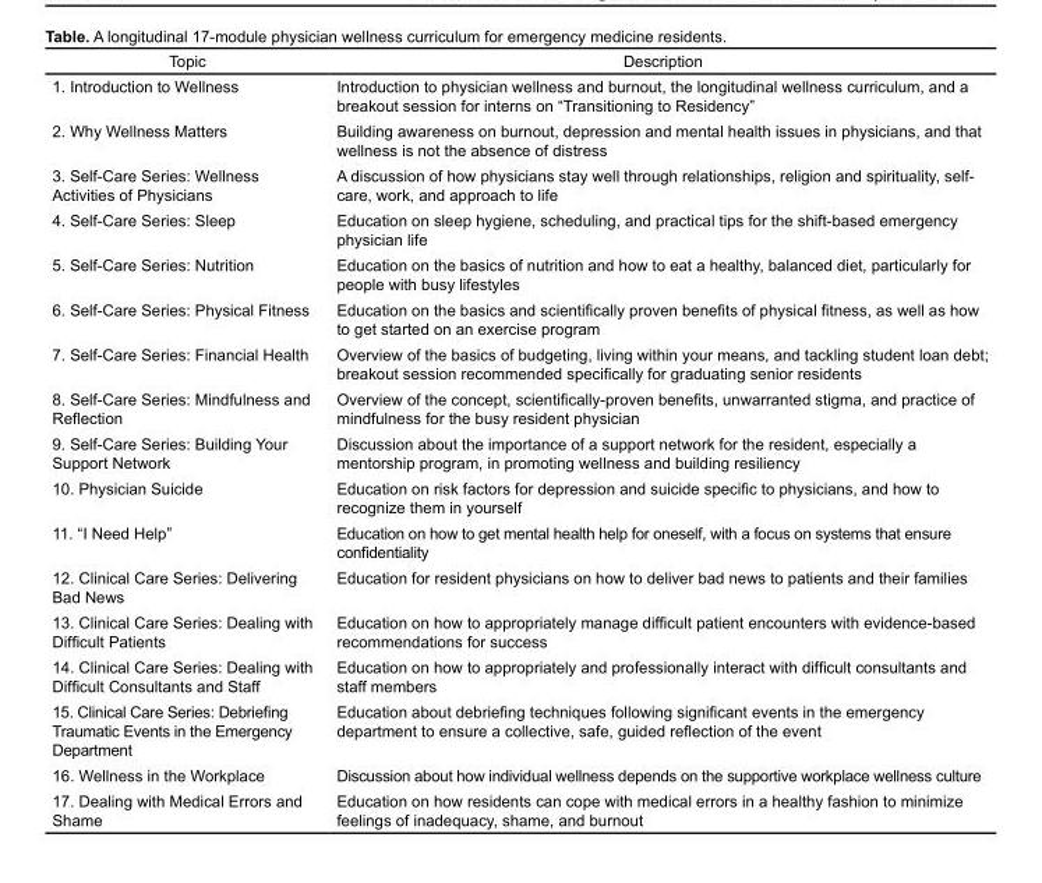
<table><thead><tr><td>Topic</td><td>Description</td></tr></thead><tbody><tr><td>1. Introduction to Wellness</td><td>Introduction to physician wellness and burnout, the longitudinal wellness curriculum, and a breakout session for interns on “Transitioning to Residency”</td></tr><tr><td>2. Why Wellness Matters</td><td>Building awareness on burnout, depression and mental health issues in physicians, and that wellness is not the absence of distress</td></tr><tr><td>3. Self-Care Series: Wellness Activities of Physicians</td><td>A discussion of how physicians stay well through relationships, religion and spirituality, self- care, work, and approach to life</td></tr><tr><td>4. Self-Care Series: Sleep</td><td>Education on sleep hygiene, scheduling, and practical tips for the shift-based emergency physician life</td></tr><tr><td>5. Self-Care Series: Nutrition</td><td>Education on the basics of nutrition and how to eat a healthy, balanced diet, particularly for people with busy lifestyles</td></tr><tr><td>6. Self-Care Series: Physical Fitness</td><td>Education on the basics and scientifically proven benefits of physical fitness, as well as how to get started on an exercise program</td></tr><tr><td>7. Self-Care Series: Financial Health</td><td>Overview of the basics of budgeting, living within your means, and tackling student loan debt; breakout session recommended specifically for graduating senior residents</td></tr><tr><td>8. Self-Care Series: Mindfulness and Reflection</td><td>Overview of the concept, scientifically-proven benefits, unwarranted stigma, and practice of mindfulness for the busy resident physician</td></tr><tr><td>9. Self-Care Series: Building Your Support Network</td><td>Discussion about the importance of a support network for the resident, especially a mentorship program, in promoting wellness and building resiliency</td></tr><tr><td>10. Physician Suicide</td><td>Education on risk factors for depression and suicide specific to physicians, and how to recognize them in yourself</td></tr><tr><td>11. “I Need Help”</td><td>Education on how to get mental health help for oneself, with a focus on systems that ensure confidentiality</td></tr><tr><td>12. Clinical Care Series: Delivering Bad News</td><td>Education for resident physicians on how to deliver bad news to patients and their families</td></tr><tr><td>13. Clinical Care Series: Dealing with Difficult Patients</td><td>Education on how to appropriately manage difficult patient encounters with evidence-based recommendations for success</td></tr><tr><td>14. Clinical Care Series: Dealing with Difficult Consultants and Staff</td><td>Education on how to appropriately and professionally interact with difficult consultants and staff members</td></tr><tr><td>15. Clinical Care Series: Debriefing Traumatic Events in the Emergency Department</td><td>Education about debriefing techniques following significant events in the emergency department to ensure a collective, safe, guided reflection of the event</td></tr><tr><td>16. Wellness in the Workplace</td><td>Discussion about how individual wellness depends on the supportive workplace wellness culture</td></tr><tr><td>17. Dealing with Medical Errors and Shame</td><td>Education on how residents can cope with medical errors in a healthy fashion to minimize feelings of inadequacy, shame, and burnout</td></tr></tbody></table>